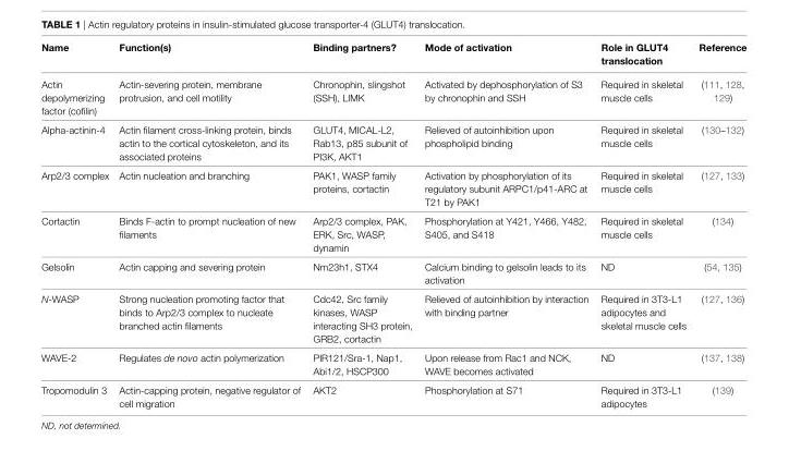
<table><thead><tr><td>Name</td><td>Function(s)</td><td>Binding partners?</td><td>Mode of activation</td><td>Role in GLUT4 translocation</td><td>Reference</td></tr></thead><tbody><tr><td>Actin depolymerizing factor (cofilin)</td><td>Actin-severing protein, membrane protrusion, and cell motility</td><td>Chronophin, slingshot (SSH), LIMK</td><td>Activated by dephosphorylation of S3 by chronophin and SSH</td><td>Required in skeletal muscle cells</td><td>(111, 128, 129)</td></tr><tr><td>Alpha-actinin-4</td><td>Actin filament cross-linking protein, binds actin to the cortical cytoskeleton, and its associated proteins</td><td>GLUT4, MICAL-L2, Rab13, p85 subunit of PI3K, AKT1</td><td>Relieved of autoinhibition upon phospholipid binding</td><td>Required in skeletal muscle cells</td><td>(130–132)</td></tr><tr><td>Arp2/3 complex</td><td>Actin nucleation and branching</td><td>PAK1, WASP family proteins, cortactin</td><td>Activation by phosphorylation of its regulatory subunit ARPC1/p41-ARC at T21 by PAK1</td><td>Required in skeletal muscle cells</td><td>(127, 133)</td></tr><tr><td>Cortactin</td><td>Binds F-actin to prompt nucleation of new filaments</td><td>Arp2/3 complex, PAK, ERK, Src, WASP, dynamin</td><td>Phosphorylation at Y421, Y466, Y482, S405, and S418</td><td>Required in skeletal muscle cells</td><td>(134)</td></tr><tr><td>Gelsolin</td><td>Actin capping and severing protein</td><td>Nm23h1, STX4</td><td>Calcium binding to gelsolin leads to its activation</td><td>ND</td><td>(54, 135)</td></tr><tr><td>N-WASP</td><td>Strong nucleation promoting factor that binds to Arp2/3 complex to nucleate branched actin filaments</td><td>Cdc42, Src family kinases, WASP interacting SH3 protein, GRB2, cortactin</td><td>Relieved of autoinhibition by interaction with binding partner</td><td>Required in 3T3-L1 adipocytes and skeletal muscle cells</td><td>(127, 136)</td></tr><tr><td>WAVE-2</td><td>Regulates de novo actin polymerization</td><td>PIR121/Sra-1, Nap1, Abi1/2, HSCP300</td><td>Upon release from Rac1 and NCK, WAVE becomes activated</td><td>ND</td><td>(137, 138)</td></tr><tr><td>Tropomodulin 3</td><td>Actin-capping protein, negative regulator of cell migration</td><td>AKT2</td><td>Phosphorylation at S71</td><td>Required in 3T3-L1 adipocytes</td><td>(139)</td></tr></tbody></table>